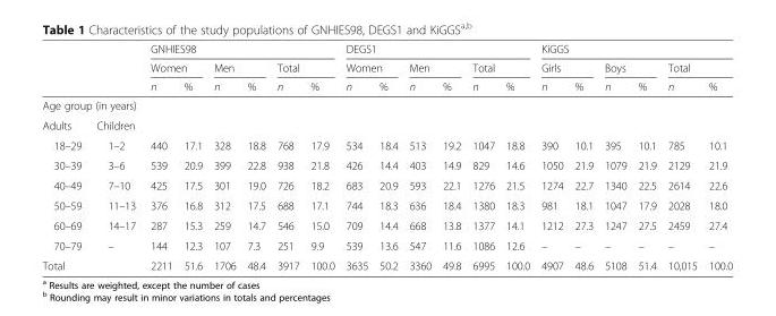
<table><thead><tr><td rowspan="3"></td><td rowspan="3"></td><td colspan="6">GNHIES98</td><td colspan="6">DEGS1</td><td colspan="6">KiGGS</td></tr><tr><td colspan="2">Women</td><td colspan="2">Men</td><td colspan="2">Total</td><td colspan="2">Women</td><td colspan="2">Men</td><td colspan="2">Total</td><td colspan="2">Girls</td><td colspan="2">Boys</td><td colspan="2">Total</td></tr><tr><td>n</td><td>%</td><td>n</td><td>%</td><td>n</td><td>%</td><td>n</td><td>%</td><td>n</td><td>%</td><td>n</td><td>%</td><td>n</td><td>%</td><td>n</td><td>%</td><td>n</td><td>%</td></tr></thead><tbody><tr><td colspan="2">Age group (in years)</td><td rowspan="2" colspan="18"></td></tr><tr><td>Adults</td><td>Children</td></tr><tr><td>18–29</td><td>1–2</td><td>440</td><td>17.1</td><td>328</td><td>18.8</td><td>768</td><td>17.9</td><td>534</td><td>18.4</td><td>513</td><td>19.2</td><td>1047</td><td>18.8</td><td>390</td><td>10.1</td><td>395</td><td>10.1</td><td>785</td><td>10.1</td></tr><tr><td>30–39</td><td>3–6</td><td>539</td><td>20.9</td><td>399</td><td>22.8</td><td>938</td><td>21.8</td><td>426</td><td>14.4</td><td>403</td><td>14.9</td><td>829</td><td>14.6</td><td>1050</td><td>21.9</td><td>1079</td><td>21.9</td><td>2129</td><td>21.9</td></tr><tr><td>40–49</td><td>7–10</td><td>425</td><td>17.5</td><td>301</td><td>19.0</td><td>726</td><td>18.2</td><td>683</td><td>20.9</td><td>593</td><td>22.1</td><td>1276</td><td>21.5</td><td>1274</td><td>22.7</td><td>1340</td><td>22.5</td><td>2614</td><td>22.6</td></tr><tr><td>50–59</td><td>11–13</td><td>376</td><td>16.8</td><td>312</td><td>17.5</td><td>688</td><td>17.1</td><td>744</td><td>18.3</td><td>636</td><td>18.4</td><td>1380</td><td>18.3</td><td>981</td><td>18.1</td><td>1047</td><td>17.9</td><td>2028</td><td>18.0</td></tr><tr><td>60–69</td><td>14–17</td><td>287</td><td>15.3</td><td>259</td><td>14.7</td><td>546</td><td>15.0</td><td>709</td><td>14.4</td><td>668</td><td>13.8</td><td>1377</td><td>14.1</td><td>1212</td><td>27.3</td><td>1247</td><td>27.5</td><td>2459</td><td>27.4</td></tr><tr><td>70–79</td><td>–</td><td>144</td><td>12.3</td><td>107</td><td>7.3</td><td>251</td><td>9.9</td><td>539</td><td>13.6</td><td>547</td><td>11.6</td><td>1086</td><td>12.6</td><td>–</td><td>–</td><td>–</td><td>–</td><td>–</td><td>–</td></tr><tr><td colspan="2">Total</td><td>2211</td><td>51.6</td><td>1706</td><td>48.4</td><td>3917</td><td>100.0</td><td>3635</td><td>50.2</td><td>3360</td><td>49.8</td><td>6995</td><td>100.0</td><td>4907</td><td>48.6</td><td>5108</td><td>51.4</td><td>10,015</td><td>100.0</td></tr></tbody></table>